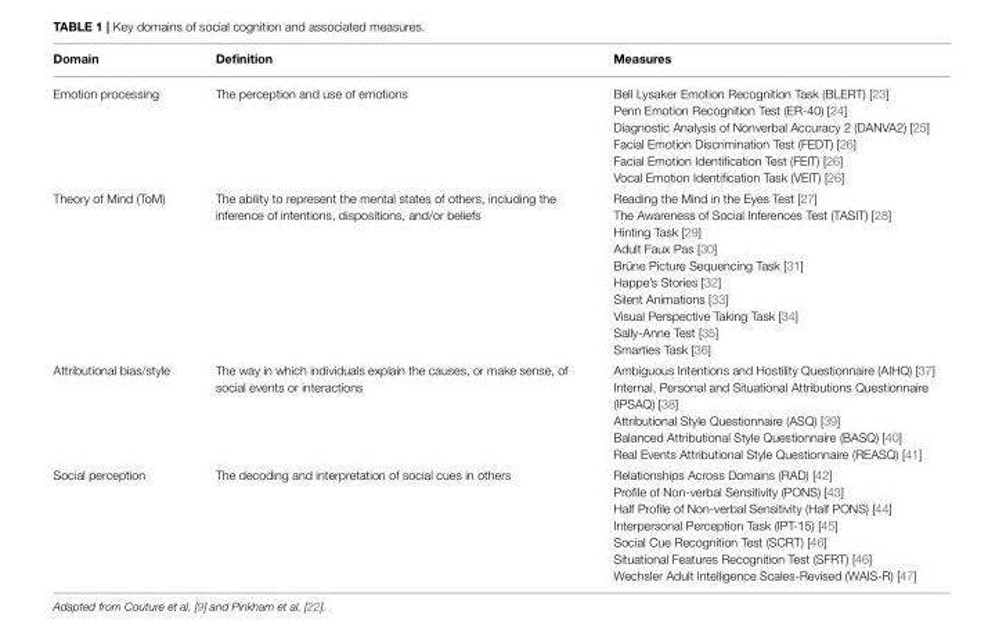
<table><thead><tr><td>Domain</td><td>Definition</td><td>Measures</td></tr></thead><tbody><tr><td>Emotion processing</td><td>The perception and use of emotions</td><td>Bell Lysaker Emotion Recognition Task (BLERT) [23] Penn Emotion Recognition Test (ER-40) [24] Diagnostic Analysis of Nonverbal Accuracy 2 (DANVA2) [25] Facial Emotion Discrimination Test (FEDT) [26] Facial Emotion Identification Test (FEIT) [26] Vocal Emotion Identification Task (VEIT) [26]</td></tr><tr><td>Theory of Mind (ToM)</td><td>The ability to represent the mental states of others, including the inference of intentions, dispositions, and/or beliefs</td><td>Reading the Mind in the Eyes Test [27] The Awareness of Social Inferences Test (TASIT) [28] Hinting Task [29] Adult Faux Pas [30] Brüne Picture Sequencing Task [31] Happe’s Stories [32] Silent Animations [33] Visual Perspective Taking Task [34] Sally-Anne Test [35] Smarties Task [36]</td></tr><tr><td>Attributional bias/style</td><td>The way in which individuals explain the causes, or make sense, of social events or interactions</td><td>Ambiguous Intentions and Hostility Questionnaire (AIHQ) [37] Internal, Personal and Situational Attributions Questionnaire (IPSAQ) [38] Attributional Style Questionnaire (ASQ) [39] Balanced Attributional Style Questionnaire (BASQ) [40] Real Events Attributional Style Questionnaire (REASQ) [41]</td></tr><tr><td>Social perception</td><td>The decoding and interpretation of social cues in others</td><td>Relationships Across Domains (RAD) [42] Profile of Non-verbal Sensitivity (PONS) [43] Half Profile of Non-verbal Sensitivity (Half PONS) [44] Interpersonal Perception Task (IPT-15) [45] Social Cue Recognition Test (SCRT) [46] Situational Features Recognition Test (SFRT) [46] Wechsler Adult Intelligence Scales-Revised (WAIS-R) [47]</td></tr></tbody></table>